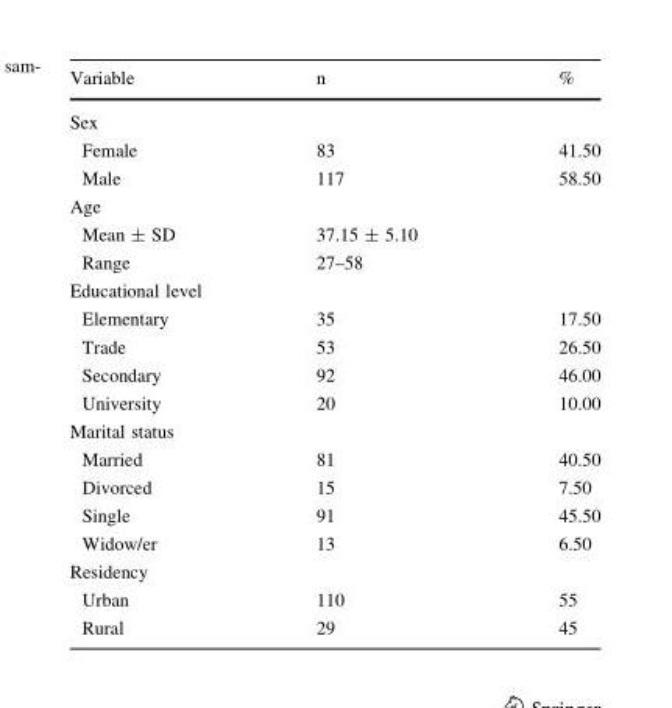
<table><thead><tr><td>Variable</td><td>n</td><td>%</td></tr></thead><tbody><tr><td colspan="3">Sex</td></tr><tr><td>Female</td><td>83</td><td>41.50</td></tr><tr><td>Male</td><td>117</td><td>58.50</td></tr><tr><td colspan="3">Age</td></tr><tr><td>Mean ± SD</td><td>37.15 ± 5.10</td><td></td></tr><tr><td>Range</td><td>27–58</td><td></td></tr><tr><td colspan="3">Educational level</td></tr><tr><td>Elementary</td><td>35</td><td>17.50</td></tr><tr><td>Trade</td><td>53</td><td>26.50</td></tr><tr><td>Secondary</td><td>92</td><td>46.00</td></tr><tr><td>University</td><td>20</td><td>10.00</td></tr><tr><td colspan="3">Marital status</td></tr><tr><td>Married</td><td>81</td><td>40.50</td></tr><tr><td>Divorced</td><td>15</td><td>7.50</td></tr><tr><td>Single</td><td>91</td><td>45.50</td></tr><tr><td>Widow/er</td><td>13</td><td>6.50</td></tr><tr><td colspan="3">Residency</td></tr><tr><td>Urban</td><td>110</td><td>55</td></tr><tr><td>Rural</td><td>29</td><td>45</td></tr></tbody></table>